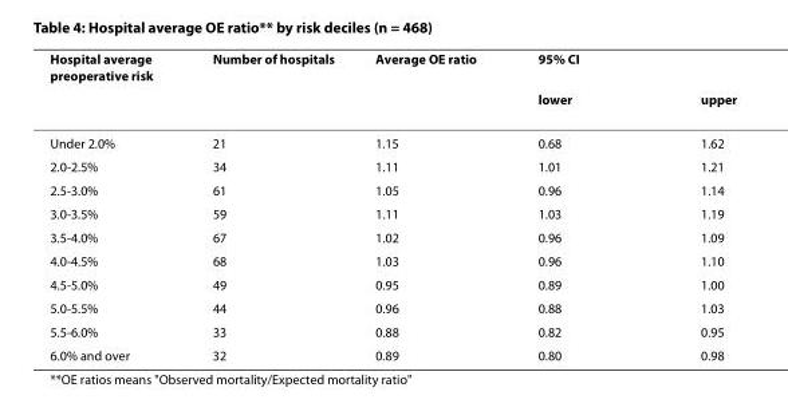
<table><thead><tr><td rowspan="2">Hospital average preoperative risk</td><td rowspan="2">Number of hospitals</td><td rowspan="2">Average OE ratio</td><td colspan="2">95% CI</td></tr><tr><td>lower</td><td>upper</td></tr></thead><tbody><tr><td>Under 2.0%</td><td>21</td><td>1.15</td><td>0.68</td><td>1.62</td></tr><tr><td>2.0-2.5%</td><td>34</td><td>1.11</td><td>1.01</td><td>1.21</td></tr><tr><td>2.5-3.0%</td><td>61</td><td>1.05</td><td>0.96</td><td>1.14</td></tr><tr><td>3.0-3.5%</td><td>59</td><td>1.11</td><td>1.03</td><td>1.19</td></tr><tr><td>3.5-4.0%</td><td>67</td><td>1.02</td><td>0.96</td><td>1.09</td></tr><tr><td>4.0-4.5%</td><td>68</td><td>1.03</td><td>0.96</td><td>1.10</td></tr><tr><td>4.5-5.0%</td><td>49</td><td>0.95</td><td>0.89</td><td>1.00</td></tr><tr><td>5.0-5.5%</td><td>44</td><td>0.96</td><td>0.88</td><td>1.03</td></tr><tr><td>5.5-6.0%</td><td>33</td><td>0.88</td><td>0.82</td><td>0.95</td></tr><tr><td>6.0% and over</td><td>32</td><td>0.89</td><td>0.80</td><td>0.98</td></tr></tbody></table>